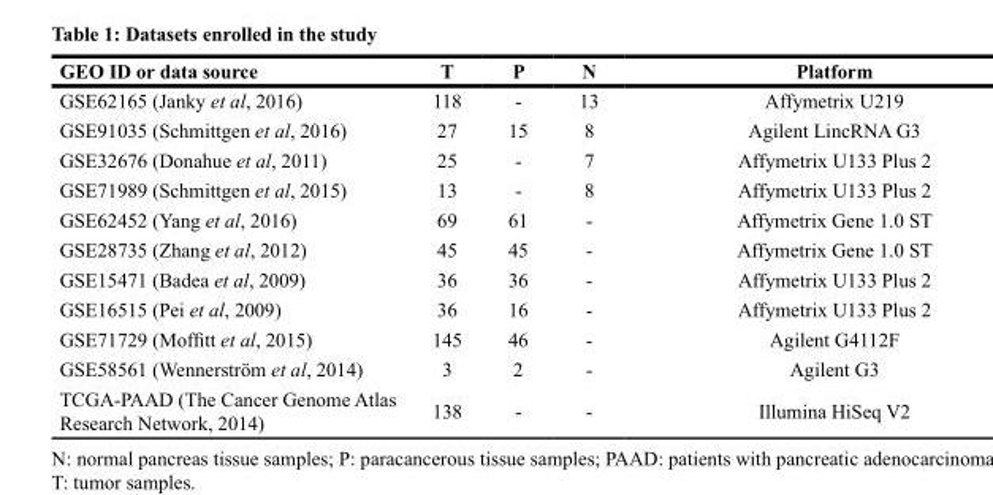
<table><thead><tr><td>GEO ID or data source</td><td>T</td><td>P</td><td>N</td><td>Platform</td></tr></thead><tbody><tr><td>GSE62165 (Janky et al, 2016)</td><td>118</td><td>-</td><td>13</td><td>Affymetrix U219</td></tr><tr><td>GSE91035 (Schmittgen et al, 2016)</td><td>27</td><td>15</td><td>8</td><td>Agilent LincRNA G3</td></tr><tr><td>GSE32676 (Donahue et al, 2011)</td><td>25</td><td>-</td><td>7</td><td>Affymetrix U133 Plus 2</td></tr><tr><td>GSE71989 (Schmittgen et al, 2015)</td><td>13</td><td>-</td><td>8</td><td>Affymetrix U133 Plus 2</td></tr><tr><td>GSE62452 (Yang et al, 2016)</td><td>69</td><td>61</td><td>-</td><td>Affymetrix Gene 1.0 ST</td></tr><tr><td>GSE28735 (Zhang et al, 2012)</td><td>45</td><td>45</td><td>-</td><td>Affymetrix Gene 1.0 ST</td></tr><tr><td>GSE15471 (Badea et al, 2009)</td><td>36</td><td>36</td><td>-</td><td>Affymetrix U133 Plus 2</td></tr><tr><td>GSE16515 (Pei et al, 2009)</td><td>36</td><td>16</td><td>-</td><td>Affymetrix U133 Plus 2</td></tr><tr><td>GSE71729 (Moffitt et al, 2015)</td><td>145</td><td>46</td><td>-</td><td>Agilent G4112F</td></tr><tr><td>GSE58561 (Wennerström et al, 2014)</td><td>3</td><td>2</td><td>-</td><td>Agilent G3</td></tr><tr><td>TCGA-PAAD (The Cancer Genome Atlas Research Network, 2014)</td><td>138</td><td>-</td><td>-</td><td>Illumina HiSeq V2</td></tr></tbody></table>